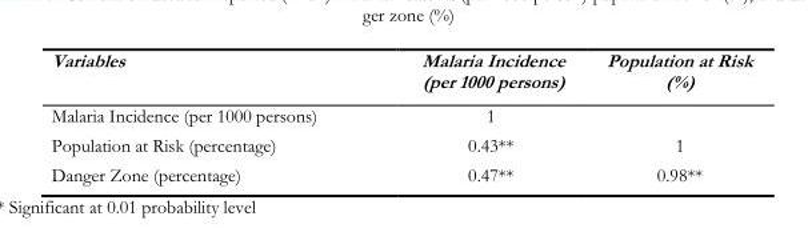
<table><thead><tr><td>Variables</td><td>Malaria Incidence (per 1000 persons)</td><td>Population at Risk (%)</td></tr></thead><tbody><tr><td>Malaria Incidence (per 1000 persons)</td><td>1</td><td></td></tr><tr><td>Population at Risk (percentage)</td><td>0.43**</td><td>1</td></tr><tr><td>Danger Zone (percentage)</td><td>0.47**</td><td>0.98**</td></tr></tbody></table>